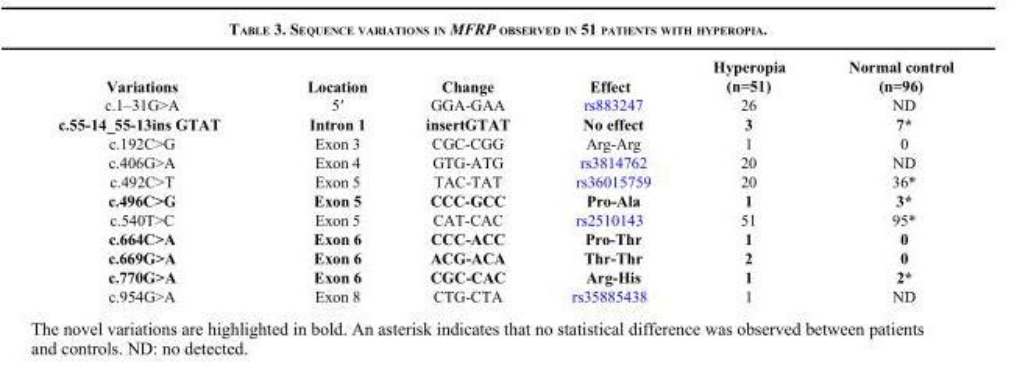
<table><thead><tr><td>Variations</td><td>Location</td><td>Change</td><td>Effect</td><td>Hyperopia (n=51)</td><td>(n=96) Normal control</td></tr></thead><tbody><tr><td>c.1–31G&gt;A</td><td>5′</td><td>GGA-GAA</td><td>rs883247</td><td>26</td><td>ND</td></tr><tr><td>c.55-14_55-13ins GTAT</td><td>Intron 1</td><td>insertGTAT</td><td>No effect</td><td>3</td><td>7*</td></tr><tr><td>c.192C&gt;G</td><td>Exon 3</td><td>CGC-CGG</td><td>Arg-Arg</td><td>1</td><td>0</td></tr><tr><td>c.406G&gt;A</td><td>Exon 4</td><td>GTG-ATG</td><td>rs3814762</td><td>20</td><td>ND</td></tr><tr><td>c.492C&gt;T</td><td>Exon 5</td><td>TAC-TAT</td><td>rs36015759</td><td>20</td><td>36*</td></tr><tr><td>c.496C&gt;G</td><td>Exon 5</td><td>CCC-GCC</td><td>Pro-Ala</td><td>1</td><td>3*</td></tr><tr><td>c.540T&gt;C</td><td>Exon 5</td><td>CAT-CAC</td><td>rs2510143</td><td>51</td><td>95*</td></tr><tr><td>c.664C&gt;A</td><td>Exon 6</td><td>CCC-ACC</td><td>Pro-Thr</td><td>1</td><td>0</td></tr><tr><td>c.669G&gt;A</td><td>Exon 6</td><td>ACG-ACA</td><td>Thr-Thr</td><td>2</td><td>0</td></tr><tr><td>c.770G&gt;A</td><td>Exon 6</td><td>CGC-CAC</td><td>Arg-His</td><td>1</td><td>2*</td></tr><tr><td>c.954G&gt;A</td><td>Exon 8</td><td>CTG-CTA</td><td>rs35885438</td><td>1</td><td>ND</td></tr></tbody></table>